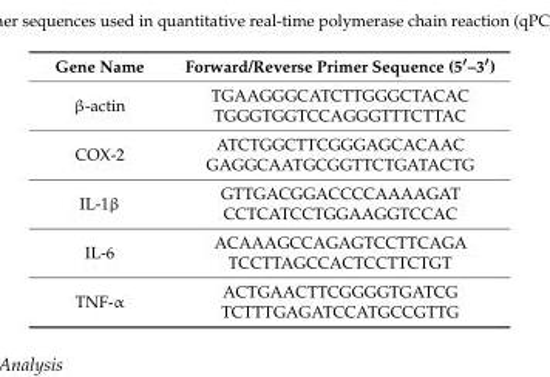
<table><thead><tr><td>Gene Name</td><td>Forward/Reverse Primer Sequence (5′–3′)</td></tr></thead><tbody><tr><td>β-actin</td><td>TGAAGGGCATCTTGGGCTACAC TGGGTGGTCCAGGGTTTCTTAC</td></tr><tr><td>COX-2</td><td>ATCTGGCTTCGGGAGCACAAC GAGGCAATGCGGTTCTGATACTG</td></tr><tr><td>IL-1β</td><td>GTTGACGGACCCCAAAAGAT CCTCATCCTGGAAGGTCCAC</td></tr><tr><td>IL-6</td><td>ACAAAGCCAGAGTCCTTCAGA TCCTTAGCCACTCCTTCTGT</td></tr><tr><td>TNF-α</td><td>ACTGAACTTCGGGGTGATCG TCTTTGAGATCCATGCCGTTG</td></tr></tbody></table>